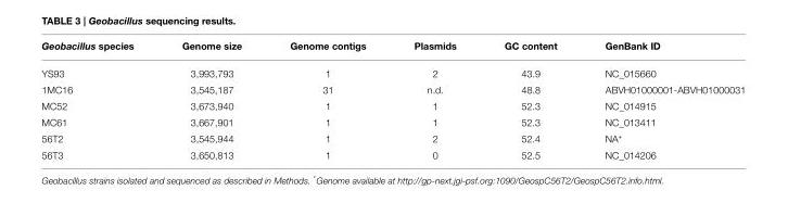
<table><thead><tr><td>Geobacillus species</td><td>Genome size</td><td>Genome contigs</td><td>Plasmids</td><td>GC content</td><td>GenBank ID</td></tr></thead><tbody><tr><td>YS93</td><td>3,993,793</td><td>1</td><td>2</td><td>43.9</td><td>NC_015660</td></tr><tr><td>1MC16</td><td>3,545,187</td><td>31</td><td>n.d.</td><td>48.8</td><td>ABVH01000001-ABVH01000031</td></tr><tr><td>MC52</td><td>3,673,940</td><td>1</td><td>1</td><td>52.3</td><td>NC_014915</td></tr><tr><td>MC61</td><td>3,667,901</td><td>1</td><td>1</td><td>52.3</td><td>NC_013411</td></tr><tr><td>56T2</td><td>3,545,944</td><td>1</td><td>2</td><td>52.4</td><td>NA*</td></tr><tr><td>56T3</td><td>3,650,813</td><td>1</td><td>0</td><td>52.5</td><td>NC_014206</td></tr></tbody></table>